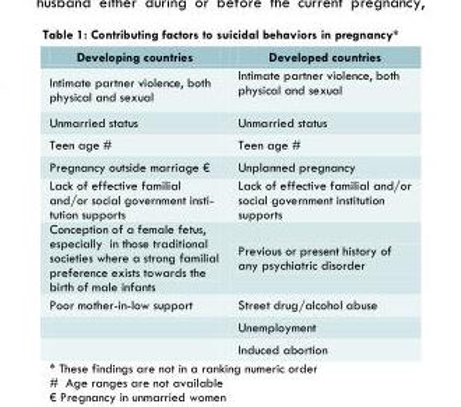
<table><thead><tr><td>Developing countries</td><td>Developed countries</td></tr></thead><tbody><tr><td>Intimate partner violence, both physical and sexual</td><td>Intimate partner violence, both physical and sexual</td></tr><tr><td>Unmarried status</td><td>Unmarried status</td></tr><tr><td>Teen age #</td><td>Teen age #</td></tr><tr><td>Pregnancy outside marriage €</td><td>Unplanned pregnancy</td></tr><tr><td>Lack of effective familial and/or social government insti- tution supports</td><td>Lack of effective familial and/or social government institution supports</td></tr><tr><td>Conception of a female fetus, especially in those traditional societies where a strong familial preference exists towards the birth of male infants</td><td>Previous or present history of any psychiatric disorder</td></tr><tr><td rowspan="3">Poor mother-in-low support</td><td>Street drug/alcohol abuse</td></tr><tr><td>Unemployment</td></tr><tr><td>Induced abortion</td></tr></tbody></table>